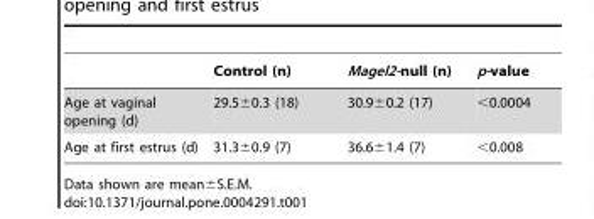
<table><thead><tr><td></td><td>Control (n)</td><td>Magel2-null (n)</td><td>p-value</td></tr></thead><tbody><tr><td>Age at vaginal opening (d)</td><td>29.5±0.3 (18)</td><td>30.9±0.2 (17)</td><td>&lt;0.0004</td></tr><tr><td>Age at first estrus (d)</td><td>31.3±0.9 (7)</td><td>36.6±1.4 (7)</td><td>&lt;0.008</td></tr></tbody></table>